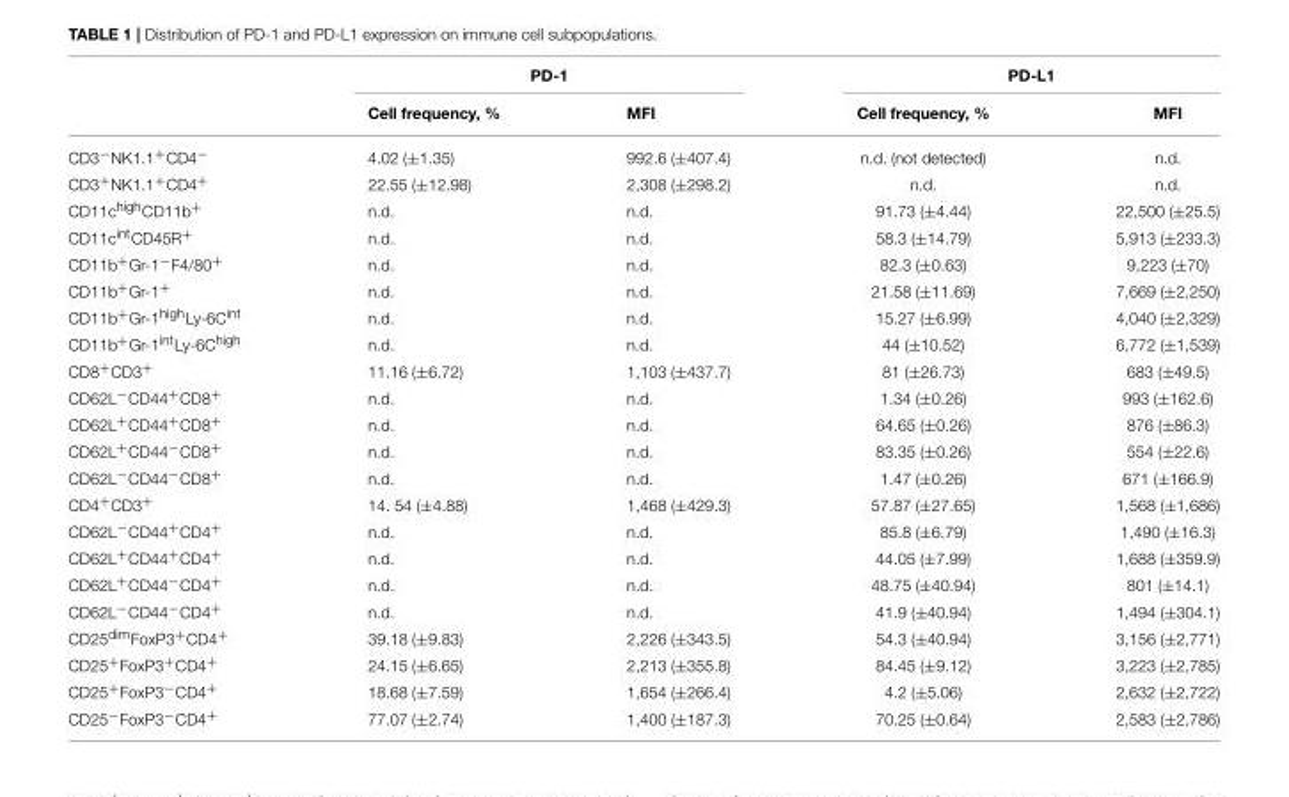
<table><thead><tr><td rowspan="2"></td><td colspan="2">PD-1</td><td colspan="2">PD-L1</td></tr><tr><td>Cell frequency, %</td><td>MFI</td><td>Cell frequency, %</td><td>MFI</td></tr></thead><tbody><tr><td>CD3<sup>−</sup>NK1.1<sup>+</sup>CD4<sup>−</sup></td><td>4.02 (±1.35)</td><td>992.6 (±407.4)</td><td>n.d. (not detected)</td><td>n.d.</td></tr><tr><td>CD3<sup>+</sup>NK1.1<sup>+</sup>CD4<sup>+</sup></td><td>22.55 (±12.98)</td><td>2,308 (±298.2)</td><td>n.d.</td><td>n.d.</td></tr><tr><td>CD11c<sup>high</sup>CD11b<sup>+</sup></td><td>n.d.</td><td>n.d.</td><td>91.73 (±4.44)</td><td>22,500 (±25.5)</td></tr><tr><td>CD11c<sup>int</sup>CD45R<sup>+</sup></td><td>n.d.</td><td>n.d.</td><td>58.3 (±14.79)</td><td>5,913 (±233.3)</td></tr><tr><td>CD11b<sup>+</sup>Gr-1<sup>−</sup>F4/80<sup>+</sup></td><td>n.d.</td><td>n.d.</td><td>82.3 (±0.63)</td><td>9,223 (±70)</td></tr><tr><td>CD11b<sup>+</sup>Gr-1<sup>+</sup></td><td>n.d.</td><td>n.d.</td><td>21.58 (±11.69)</td><td>7,669 (±2,250)</td></tr><tr><td>CD11b<sup>+</sup>Gr-1<sup>high</sup>Ly-6C<sup>int</sup></td><td>n.d.</td><td>n.d.</td><td>15.27 (±6.99)</td><td>4,040 (±2,329)</td></tr><tr><td>CD11b<sup>+</sup>Gr-1<sup>int</sup>Ly-6C<sup>high</sup></td><td>n.d.</td><td>n.d.</td><td>44 (±10.52)</td><td>6,772 (±1,539)</td></tr><tr><td>CD8<sup>+</sup>CD3<sup>+</sup></td><td>11.16 (±6.72)</td><td>1,103 (±437.7)</td><td>81 (±26.73)</td><td>683 (±49.5)</td></tr><tr><td>CD62L<sup>−</sup>CD44<sup>+</sup>CD8<sup>+</sup></td><td>n.d.</td><td>n.d.</td><td>1.34 (±0.26)</td><td>993 (±162.6)</td></tr><tr><td>CD62L<sup>+</sup>CD44<sup>+</sup>CD8<sup>+</sup></td><td>n.d.</td><td>n.d.</td><td>64.65 (±0.26)</td><td>876 (±86.3)</td></tr><tr><td>CD62L<sup>+</sup>CD44<sup>−</sup>CD8<sup>+</sup></td><td>n.d.</td><td>n.d.</td><td>83.35 (±0.26)</td><td>554 (±22.6)</td></tr><tr><td>CD62L<sup>−</sup>CD44<sup>−</sup>CD8<sup>+</sup></td><td>n.d.</td><td>n.d.</td><td>1.47 (±0.26)</td><td>671 (±166.9)</td></tr><tr><td>CD4<sup>+</sup>CD3<sup>+</sup></td><td>14. 54 (±4.88)</td><td>1,468 (±429.3)</td><td>57.87 (±27.65)</td><td>1,568 (±1,686)</td></tr><tr><td>CD62L<sup>−</sup>CD44<sup>+</sup>CD4<sup>+</sup></td><td>n.d.</td><td>n.d.</td><td>85.8 (±6.79)</td><td>1,490 (±16.3)</td></tr><tr><td>CD62L<sup>+</sup>CD44<sup>+</sup>CD4<sup>+</sup></td><td>n.d.</td><td>n.d.</td><td>44.05 (±7.99)</td><td>1,688 (±359.9)</td></tr><tr><td>CD62L<sup>+</sup>CD44<sup>−</sup>CD4<sup>+</sup></td><td>n.d.</td><td>n.d.</td><td>48.75 (±40.94)</td><td>801 (±14.1)</td></tr><tr><td>CD62L<sup>−</sup>CD44<sup>−</sup>CD4<sup>+</sup></td><td>n.d.</td><td>n.d.</td><td>41.9 (±40.94)</td><td>1,494 (±304.1)</td></tr><tr><td>CD25<sup>dim</sup>FoxP3<sup>+</sup>CD4<sup>+</sup></td><td>39.18 (±9.83)</td><td>2,226 (±343.5)</td><td>54.3 (±40.94)</td><td>3,156 (±2,771)</td></tr><tr><td>CD25<sup>+</sup>FoxP3<sup>+</sup>CD4<sup>+</sup></td><td>24.15 (±6.65)</td><td>2,213 (±355.8)</td><td>84.45 (±9.12)</td><td>3,223 (±2,785)</td></tr><tr><td>CD25<sup>+</sup>FoxP3<sup>−</sup>CD4<sup>+</sup></td><td>18.68 (±7.59)</td><td>1,654 (±266.4)</td><td>4.2 (±5.06)</td><td>2,632 (±2,722)</td></tr><tr><td>CD25<sup>−</sup>FoxP3<sup>−</sup>CD4<sup>+</sup></td><td>77.07 (±2.74)</td><td>1,400 (±187.3)</td><td>70.25 (±0.64)</td><td>2,583 (±2,786)</td></tr></tbody></table>